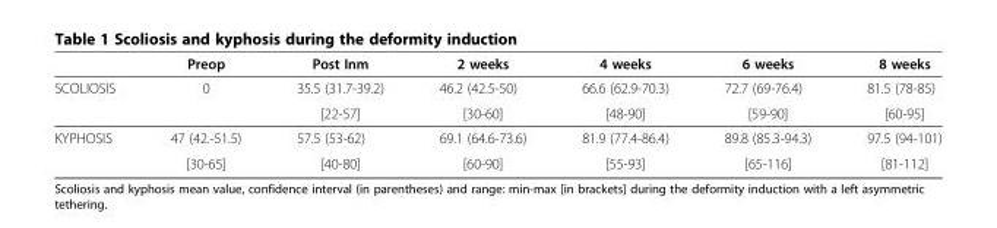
<table><thead><tr><td></td><td>Preop</td><td>Post Inm</td><td>2 weeks</td><td>4 weeks</td><td>6 weeks</td><td>8 weeks</td></tr></thead><tbody><tr><td rowspan="2">SCOLIOSIS</td><td rowspan="2">0</td><td>35.5 (31.7-39.2)</td><td>46.2 (42.5-50)</td><td>66.6 (62.9-70.3)</td><td>72.7 (69-76.4)</td><td>81.5 (78-85)</td></tr><tr><td>[22-57]</td><td>[30-60]</td><td>[48-90]</td><td>[59-90]</td><td>[60-95]</td></tr><tr><td rowspan="2">KYPHOSIS</td><td>47 (42.-51.5)</td><td>57.5 (53-62)</td><td>69.1 (64.6-73.6)</td><td>81.9 (77.4-86.4)</td><td>89.8 (85.3-94.3)</td><td>97.5 (94-101)</td></tr><tr><td>[30-65]</td><td>[40-80]</td><td>[60-90]</td><td>[55-93]</td><td>[65-116]</td><td>[81-112]</td></tr></tbody></table>